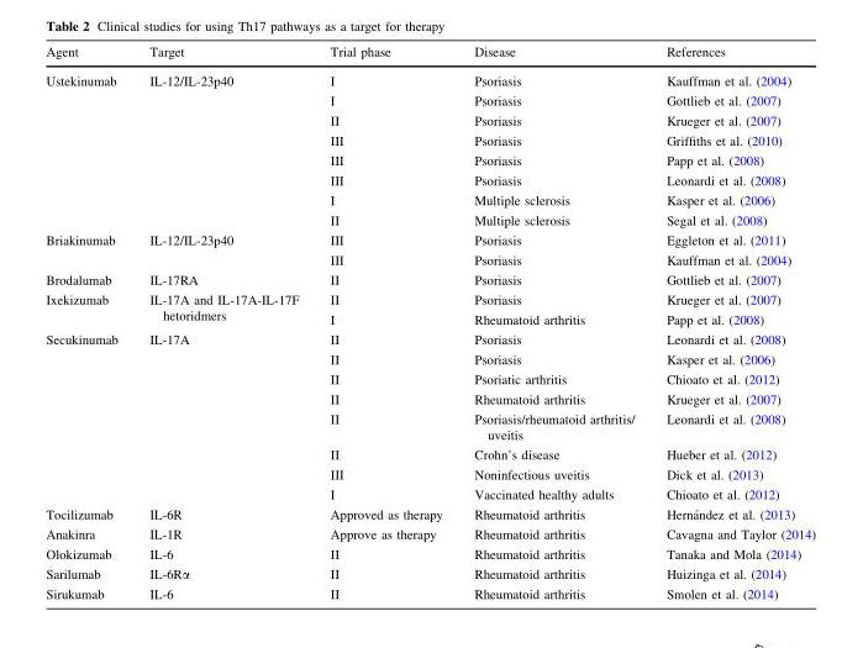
<table><thead><tr><td>Agent</td><td>Target</td><td>Trial phase</td><td>Disease</td><td>References</td></tr></thead><tbody><tr><td rowspan="8">Ustekinumab</td><td rowspan="8">IL-12/IL-23p40</td><td>I</td><td>Psoriasis</td><td>Kauffman et al. (2004)</td></tr><tr><td>I</td><td>Psoriasis</td><td>Gottlieb et al. (2007)</td></tr><tr><td>II</td><td>Psoriasis</td><td>Krueger et al. (2007)</td></tr><tr><td>III</td><td>Psoriasis</td><td>Griffiths et al. (2010)</td></tr><tr><td>III</td><td>Psoriasis</td><td>Papp et al. (2008)</td></tr><tr><td>III</td><td>Psoriasis</td><td>Leonardi et al. (2008)</td></tr><tr><td>I</td><td>Multiple sclerosis</td><td>Kasper et al. (2006)</td></tr><tr><td>II</td><td>Multiple sclerosis</td><td>Segal et al. (2008)</td></tr><tr><td rowspan="2">Briakinumab</td><td rowspan="2">IL-12/IL-23p40</td><td>III</td><td>Psoriasis</td><td>Eggleton et al. (2011)</td></tr><tr><td>III</td><td>Psoriasis</td><td>Kauffman et al. (2004)</td></tr><tr><td>Brodalumab</td><td>IL-17RA</td><td>II</td><td>Psoriasis</td><td>Gottlieb et al. (2007)</td></tr><tr><td rowspan="2">Ixekizumab</td><td rowspan="2">IL-17A and IL-17A-IL-17F hetoridmers</td><td>II</td><td>Psoriasis</td><td>Krueger et al. (2007)</td></tr><tr><td>I</td><td>Rheumatoid arthritis</td><td>Papp et al. (2008)</td></tr><tr><td rowspan="8">Secukinumab</td><td rowspan="8">IL-17A</td><td>II</td><td>Psoriasis</td><td>Leonardi et al. (2008)</td></tr><tr><td>II</td><td>Psoriasis</td><td>Kasper et al. (2006)</td></tr><tr><td>II</td><td>Psoriatic arthritis</td><td>Chioato et al. (2012)</td></tr><tr><td>II</td><td>Rheumatoid arthritis</td><td>Krueger et al. (2007)</td></tr><tr><td>II</td><td>Psoriasis/rheumatoid arthritis/ uveitis</td><td>Leonardi et al. (2008)</td></tr><tr><td>II</td><td>Crohn’s disease</td><td>Hueber et al. (2012)</td></tr><tr><td>III</td><td>Noninfectious uveitis</td><td>Dick et al. (2013)</td></tr><tr><td>I</td><td>Vaccinated healthy adults</td><td>Chioato et al. (2012)</td></tr><tr><td>Tocilizumab</td><td>IL-6R</td><td>Approved as therapy</td><td>Rheumatoid arthritis</td><td>Herna´ndez et al. (2013)</td></tr><tr><td>Anakinra</td><td>IL-1R</td><td>Approve as therapy</td><td>Rheumatoid arthritis</td><td>Cavagna and Taylor (2014)</td></tr><tr><td>Olokizumab</td><td>IL-6</td><td>II</td><td>Rheumatoid arthritis</td><td>Tanaka and Mola (2014)</td></tr><tr><td>Sarilumab</td><td>IL-6Rα</td><td>II</td><td>Rheumatoid arthritis</td><td>Huizinga et al. (2014)</td></tr><tr><td>Sirukumab</td><td>IL-6</td><td>II</td><td>Rheumatoid arthritis</td><td>Smolen et al. (2014)</td></tr></tbody></table>